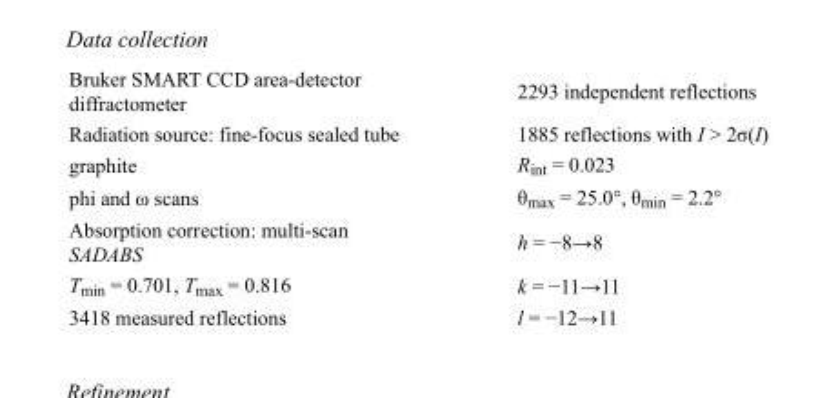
<table><tbody><tr><td>Bruker SMART CCD area-detector diffractometer</td><td>2293 independent reflections</td></tr><tr><td>Radiation source: fine-focus sealed tube</td><td>1885 reflections with I &gt; 2σ(I)</td></tr><tr><td>graphite</td><td>R<sub>int</sub> = 0.023</td></tr><tr><td>phi and ω scans</td><td>θ<sub>max</sub> = 25.0°, θ<sub>min</sub> = 2.2°</td></tr><tr><td>Absorption correction: multi-scan SADABS</td><td>h = −8→8</td></tr><tr><td>T<sub>min</sub> = 0.701, T<sub>max</sub> = 0.816</td><td>k = −11→11</td></tr><tr><td>3418 measured reflections</td><td>l = −12→11</td></tr></tbody></table>